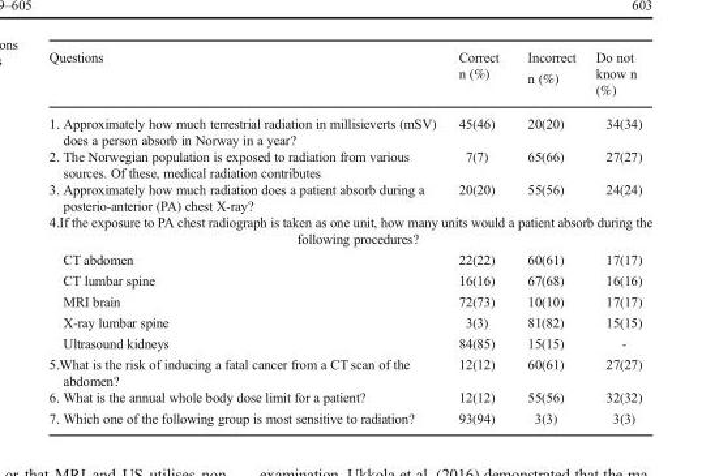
<table><thead><tr><td>Questions</td><td>Correct n (%)</td><td>Incorrect n (%)</td><td>Do not know n (%)</td></tr></thead><tbody><tr><td>1. Approximately how much terrestrial radiation in millisieverts (mSV) does a person absorb in Norway in a year?</td><td>45(46)</td><td>20(20)</td><td>34(34)</td></tr><tr><td>2. The Norwegian population is exposed to radiation from various sources. Of these, medical radiation contributes</td><td>7(7)</td><td>65(66)</td><td>27(27)</td></tr><tr><td>3. Approximately how much radiation does a patient absorb during a posterio-anterior (PA) chest X-ray?</td><td>20(20)</td><td>55(56)</td><td>24(24)</td></tr><tr><td colspan="4">4.If the exposure to PA chest radiograph is taken as one unit, how many units would a patient absorb during the following procedures?</td></tr><tr><td>CT abdomen</td><td>22(22)</td><td>60(61)</td><td>17(17)</td></tr><tr><td>CT lumbar spine</td><td>16(16)</td><td>67(68)</td><td>16(16)</td></tr><tr><td>MRI brain</td><td>72(73)</td><td>10(10)</td><td>17(17)</td></tr><tr><td>X-ray lumbar spine</td><td>3(3)</td><td>81(82)</td><td>15(15)</td></tr><tr><td>Ultrasound kidneys</td><td>84(85)</td><td>15(15)</td><td>-</td></tr><tr><td>5.What is the risk of inducing a fatal cancer from a CT scan of the abdomen?</td><td>12(12)</td><td>60(61)</td><td>27(27)</td></tr><tr><td>6. What is the annual whole body dose limit for a patient?</td><td>12(12)</td><td>55(56)</td><td>32(32)</td></tr><tr><td>7. Which one of the following group is most sensitive to radiation?</td><td>93(94)</td><td>3(3)</td><td>3(3)</td></tr></tbody></table>